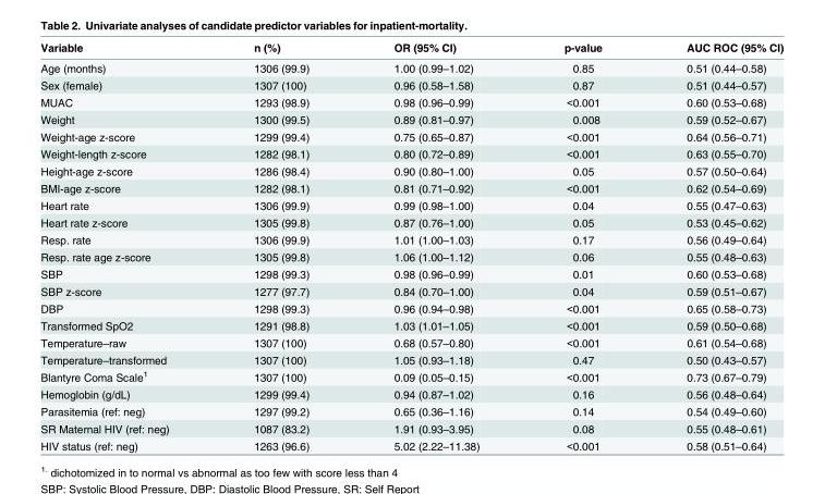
<table><thead><tr><td>Variable</td><td>n (%)</td><td>OR (95% CI)</td><td>p-value</td><td>AUC ROC (95% CI)</td></tr></thead><tbody><tr><td>Age (months)</td><td>1306 (99.9)</td><td>1.00 (0.99–1.02)</td><td>0.85</td><td>0.51 (0.44–0.58)</td></tr><tr><td>Sex (female)</td><td>1307 (100)</td><td>0.96 (0.58–1.58)</td><td>0.87</td><td>0.51 (0.44–0.57)</td></tr><tr><td>MUAC</td><td>1293 (98.9)</td><td>0.98 (0.96–0.99)</td><td>&lt;0.001</td><td>0.60 (0.53–0.68)</td></tr><tr><td>Weight</td><td>1300 (99.5)</td><td>0.89 (0.81–0.97)</td><td>0.008</td><td>0.59 (0.52–0.67)</td></tr><tr><td>Weight-age z-score</td><td>1299 (99.4)</td><td>0.75 (0.65–0.87)</td><td>&lt;0.001</td><td>0.64 (0.56–0.71)</td></tr><tr><td>Weight-length z-score</td><td>1282 (98.1)</td><td>0.80 (0.72–0.89)</td><td>&lt;0.001</td><td>0.63 (0.55–0.70)</td></tr><tr><td>Height-age z-score</td><td>1286 (98.4)</td><td>0.90 (0.80–1.00)</td><td>0.05</td><td>0.57 (0.50–0.64)</td></tr><tr><td>BMI-age z-score</td><td>1282 (98.1)</td><td>0.81 (0.71–0.92)</td><td>&lt;0.001</td><td>0.62 (0.54–0.69)</td></tr><tr><td>Heart rate</td><td>1306 (99.9)</td><td>0.99 (0.98–1.00)</td><td>0.04</td><td>0.55 (0.47–0.63)</td></tr><tr><td>Heart rate z-score</td><td>1305 (99.8)</td><td>0.87 (0.76–1.00)</td><td>0.05</td><td>0.53 (0.45–0.62)</td></tr><tr><td>Resp. rate</td><td>1306 (99.9)</td><td>1.01 (1.00–1.03)</td><td>0.17</td><td>0.56 (0.49–0.64)</td></tr><tr><td>Resp. rate age z-score</td><td>1305 (99.8)</td><td>1.06 (1.00–1.12)</td><td>0.06</td><td>0.55 (0.48–0.63)</td></tr><tr><td>SBP</td><td>1298 (99.3)</td><td>0.98 (0.96–0.99)</td><td>0.01</td><td>0.60 (0.53–0.68)</td></tr><tr><td>SBP z-score</td><td>1277 (97.7)</td><td>0.84 (0.70–1.00)</td><td>0.04</td><td>0.59 (0.51–0.67)</td></tr><tr><td>DBP</td><td>1298 (99.3)</td><td>0.96 (0.94–0.98)</td><td>&lt;0.001</td><td>0.65 (0.58–0.73)</td></tr><tr><td>Transformed SpO2</td><td>1291 (98.8)</td><td>1.03 (1.01–1.05)</td><td>&lt;0.001</td><td>0.59 (0.50–0.68)</td></tr><tr><td>Temperature–raw</td><td>1307 (100)</td><td>0.68 (0.57–0.80)</td><td>&lt;0.001</td><td>0.61 (0.54–0.68)</td></tr><tr><td>Temperature–transformed</td><td>1307 (100)</td><td>1.05 (0.93–1.18)</td><td>0.47</td><td>0.50 (0.43–0.57)</td></tr><tr><td>Blantyre Coma Scale<sup>1</sup></td><td>1307 (100)</td><td>0.09 (0.05–0.15)</td><td>&lt;0.001</td><td>0.73 (0.67–0.79)</td></tr><tr><td>Hemoglobin (g/dL)</td><td>1299 (99.4)</td><td>0.94 (0.87–1.02)</td><td>0.16</td><td>0.56 (0.48–0.64)</td></tr><tr><td>Parasitemia (ref: neg)</td><td>1297 (99.2)</td><td>0.65 (0.36–1.16)</td><td>0.14</td><td>0.54 (0.49–0.60)</td></tr><tr><td>SR Maternal HIV (ref: neg)</td><td>1087 (83.2)</td><td>1.91 (0.93–3.95)</td><td>0.08</td><td>0.55 (0.48–0.61)</td></tr><tr><td>HIV status (ref: neg)</td><td>1263 (96.6)</td><td>5.02 (2.22–11.38)</td><td>&lt;0.001</td><td>0.58 (0.51–0.64)</td></tr></tbody></table>